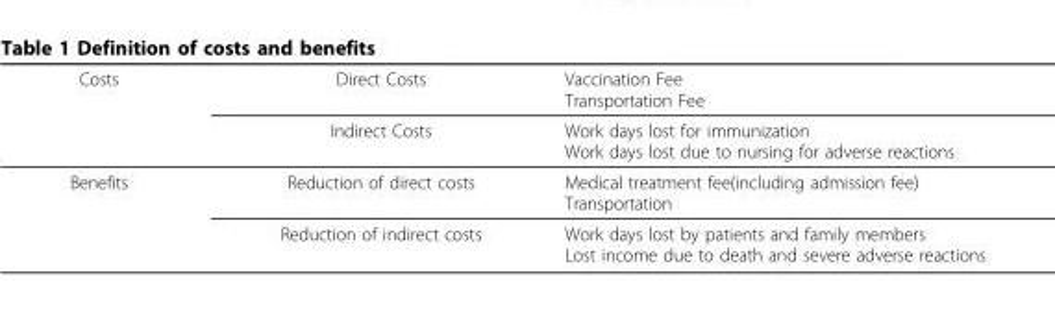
<table><thead><tr><td rowspan="2">Costs</td><td rowspan="2">Direct Costs Indirect Costs</td><td rowspan="2">Vaccination Fee Transportation Fee Work days lost for immunization Work days lost due to nursing for adverse reactions</td></tr><tr></tr></thead><tbody><tr><td rowspan="2">Benefits</td><td>Reduction of direct costs</td><td>Medical treatment fee(including admission fee) Transportation</td></tr><tr><td>Reduction of indirect costs</td><td>Work days lost by patients and family members Lost income due to death and severe adverse reactions</td></tr></tbody></table>